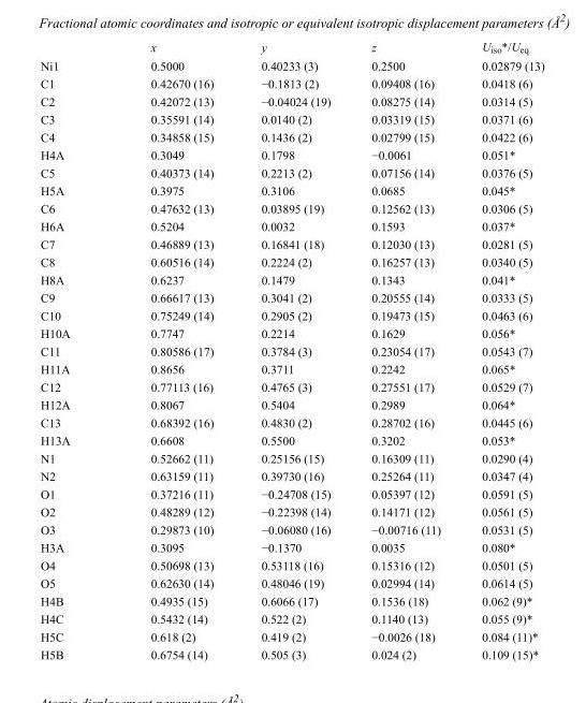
<table><thead><tr><td></td><td>x</td><td>y</td><td>z</td><td>U<sub>iso</sub>*/U<sub>eq</sub></td></tr></thead><tbody><tr><td>Ni1</td><td>0.5000</td><td>0.40233 (3)</td><td>0.2500</td><td>0.02879 (13)</td></tr><tr><td>C1</td><td>0.42670 (16)</td><td>−0.1813 (2)</td><td>0.09408 (16)</td><td>0.0418 (6)</td></tr><tr><td>C2</td><td>0.42072 (13)</td><td>−0.04024 (19)</td><td>0.08275 (14)</td><td>0.0314 (5)</td></tr><tr><td>C3</td><td>0.35591 (14)</td><td>0.0140 (2)</td><td>0.03319 (15)</td><td>0.0371 (6)</td></tr><tr><td>C4</td><td>0.34858 (15)</td><td>0.1436 (2)</td><td>0.02799 (15)</td><td>0.0422 (6)</td></tr><tr><td>H4A</td><td>0.3049</td><td>0.1798</td><td>−0.0061</td><td>0.051*</td></tr><tr><td>C5</td><td>0.40373 (14)</td><td>0.2213 (2)</td><td>0.07156 (14)</td><td>0.0376 (5)</td></tr><tr><td>H5A</td><td>0.3975</td><td>0.3106</td><td>0.0685</td><td>0.045*</td></tr><tr><td>C6</td><td>0.47632 (13)</td><td>0.03895 (19)</td><td>0.12562 (13)</td><td>0.0306 (5)</td></tr><tr><td>H6A</td><td>0.5204</td><td>0.0032</td><td>0.1593</td><td>0.037*</td></tr><tr><td>C7</td><td>0.46889 (13)</td><td>0.16841 (18)</td><td>0.12030 (13)</td><td>0.0281 (5)</td></tr><tr><td>C8</td><td>0.60516 (14)</td><td>0.2224 (2)</td><td>0.16257 (13)</td><td>0.0340 (5)</td></tr><tr><td>H8A</td><td>0.6237</td><td>0.1479</td><td>0.1343</td><td>0.041*</td></tr><tr><td>C9</td><td>0.66617 (13)</td><td>0.3041 (2)</td><td>0.20555 (14)</td><td>0.0333 (5)</td></tr><tr><td>C10</td><td>0.75249 (14)</td><td>0.2905 (2)</td><td>0.19473 (15)</td><td>0.0463 (6)</td></tr><tr><td>H10A</td><td>0.7747</td><td>0.2214</td><td>0.1629</td><td>0.056*</td></tr><tr><td>C11</td><td>0.80586 (17)</td><td>0.3784 (3)</td><td>0.23054 (17)</td><td>0.0543 (7)</td></tr><tr><td>H11A</td><td>0.8656</td><td>0.3711</td><td>0.2242</td><td>0.065*</td></tr><tr><td>C12</td><td>0.77113 (16)</td><td>0.4765 (3)</td><td>0.27551 (17)</td><td>0.0529 (7)</td></tr><tr><td>H12A</td><td>0.8067</td><td>0.5404</td><td>0.2989</td><td>0.064*</td></tr><tr><td>C13</td><td>0.68392 (16)</td><td>0.4830 (2)</td><td>0.28702 (16)</td><td>0.0445 (6)</td></tr><tr><td>H13A</td><td>0.6608</td><td>0.5500</td><td>0.3202</td><td>0.053*</td></tr><tr><td>N1</td><td>0.52662 (11)</td><td>0.25156 (15)</td><td>0.16309 (11)</td><td>0.0290 (4)</td></tr><tr><td>N2</td><td>0.63159 (11)</td><td>0.39730 (16)</td><td>0.25264 (11)</td><td>0.0347 (4)</td></tr><tr><td>O1</td><td>0.37216 (11)</td><td>−0.24708 (15)</td><td>0.05397 (12)</td><td>0.0591 (5)</td></tr><tr><td>O2</td><td>0.48289 (12)</td><td>−0.22398 (14)</td><td>0.14171 (12)</td><td>0.0561 (5)</td></tr><tr><td>O3</td><td>0.29873 (10)</td><td>−0.06080 (16)</td><td>−0.00716 (11)</td><td>0.0531 (5)</td></tr><tr><td>H3A</td><td>0.3095</td><td>−0.1370</td><td>0.0035</td><td>0.080*</td></tr><tr><td>O4</td><td>0.50698 (13)</td><td>0.53118 (16)</td><td>0.15316 (12)</td><td>0.0501 (5)</td></tr><tr><td>O5</td><td>0.62630 (14)</td><td>0.48046 (19)</td><td>0.02994 (14)</td><td>0.0614 (5)</td></tr><tr><td>H4B</td><td>0.4935 (15)</td><td>0.6066 (17)</td><td>0.1536 (18)</td><td>0.062 (9)*</td></tr><tr><td>H4C</td><td>0.5432 (14)</td><td>0.522 (2)</td><td>0.1140 (13)</td><td>0.055 (9)*</td></tr><tr><td>H5C</td><td>0.618 (2)</td><td>0.419 (2)</td><td>−0.0026 (18)</td><td>0.084 (11)*</td></tr><tr><td>H5B</td><td>0.6754 (14)</td><td>0.505 (3)</td><td>0.024 (2)</td><td>0.109 (15)*</td></tr></tbody></table>